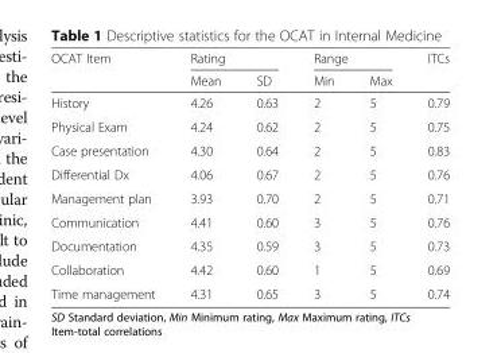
<table><thead><tr><td rowspan="2">OCAT Item</td><td colspan="2">Rating</td><td colspan="2">Range</td><td rowspan="2">ITCs</td></tr><tr><td>Mean</td><td>SD</td><td>Min</td><td>Max</td></tr></thead><tbody><tr><td>History</td><td>4.26</td><td>0.63</td><td>2</td><td>5</td><td>0.79</td></tr><tr><td>Physical Exam</td><td>4.24</td><td>0.62</td><td>2</td><td>5</td><td>0.75</td></tr><tr><td>Case presentation</td><td>4.30</td><td>0.64</td><td>2</td><td>5</td><td>0.83</td></tr><tr><td>Differential Dx</td><td>4.06</td><td>0.67</td><td>2</td><td>5</td><td>0.76</td></tr><tr><td>Management plan</td><td>3.93</td><td>0.70</td><td>2</td><td>5</td><td>0.71</td></tr><tr><td>Communication</td><td>4.41</td><td>0.60</td><td>3</td><td>5</td><td>0.76</td></tr><tr><td>Documentation</td><td>4.35</td><td>0.59</td><td>3</td><td>5</td><td>0.73</td></tr><tr><td>Collaboration</td><td>4.42</td><td>0.60</td><td>1</td><td>5</td><td>0.69</td></tr><tr><td>Time management</td><td>4.31</td><td>0.65</td><td>3</td><td>5</td><td>0.74</td></tr></tbody></table>